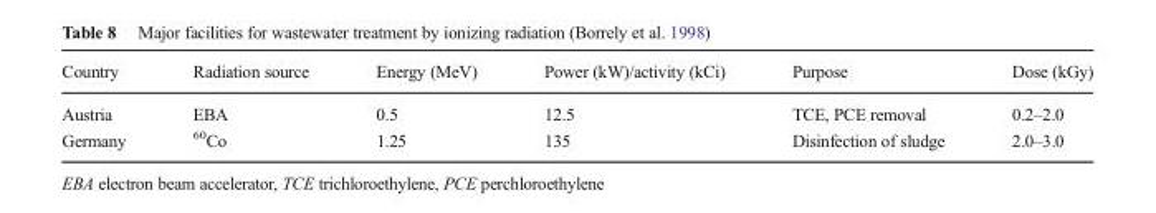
<table><thead><tr><td>Country</td><td>Radiation source</td><td>Energy (MeV)</td><td>Power (kW)/activity (kCi)</td><td>Purpose</td><td>Dose (kGy)</td></tr></thead><tbody><tr><td>Austria</td><td>EBA</td><td>0.5</td><td>12.5</td><td>TCE, PCE removal</td><td>0.2–2.0</td></tr><tr><td>Germany</td><td><sup>60</sup>Co</td><td>1.25</td><td>135</td><td>Disinfection of sludge</td><td>2.0–3.0</td></tr></tbody></table>